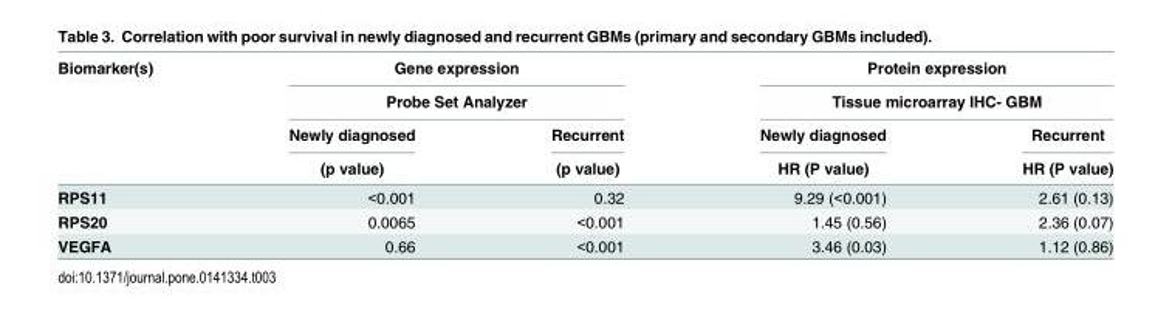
<table><thead><tr><td rowspan="4">Biomarker(s)</td><td rowspan="2" colspan="2">Gene expression Probe Set Analyzer</td><td rowspan="2" colspan="2">Protein expression Tissue microarray IHC- GBM</td></tr><tr></tr><tr><td rowspan="2">Newly diagnosed (p value)</td><td rowspan="2">Recurrent (p value)</td><td rowspan="2">Newly diagnosed HR (P value)</td><td rowspan="2">Recurrent HR (P value)</td></tr><tr></tr></thead><tbody><tr><td>RPS11</td><td>&lt;0.001</td><td>0.32</td><td>9.29 (&lt;0.001)</td><td>2.61 (0.13)</td></tr><tr><td>RPS20</td><td>0.0065</td><td>&lt;0.001</td><td>1.45 (0.56)</td><td>2.36 (0.07)</td></tr><tr><td>VEGFA</td><td>0.66</td><td>&lt;0.001</td><td>3.46 (0.03)</td><td>1.12 (0.86)</td></tr></tbody></table>